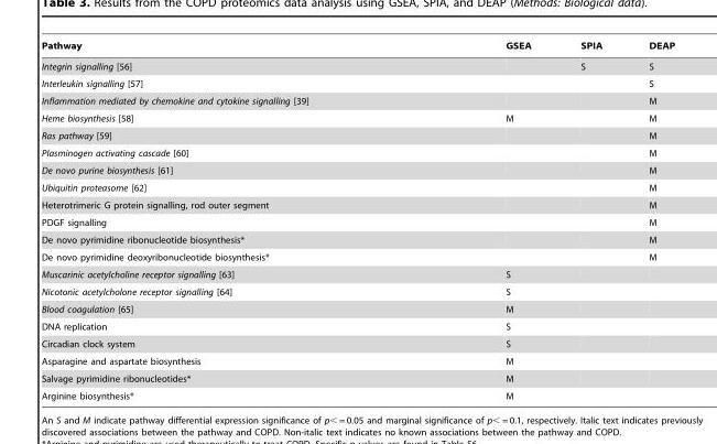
<table><thead><tr><td>Pathway</td><td>GSEA</td><td>SPIA</td><td>DEAP</td></tr></thead><tbody><tr><td>Integrin signalling [56]</td><td></td><td>S</td><td>S</td></tr><tr><td>Interleukin signalling [57]</td><td></td><td></td><td>S</td></tr><tr><td>Inflammation mediated by chemokine and cytokine signalling [39]</td><td></td><td></td><td>M</td></tr><tr><td>Heme biosynthesis [58]</td><td>M</td><td></td><td>M</td></tr><tr><td>Ras pathway [59]</td><td></td><td></td><td>M</td></tr><tr><td>Plasminogen activating cascade [60]</td><td></td><td></td><td>M</td></tr><tr><td>De novo purine biosynthesis [61]</td><td></td><td></td><td>M</td></tr><tr><td>Ubiquitin proteasome [62]</td><td></td><td></td><td>M</td></tr><tr><td>Heterotrimeric G protein signalling, rod outer segment</td><td></td><td></td><td>M</td></tr><tr><td>PDGF signalling</td><td></td><td></td><td>M</td></tr><tr><td>De novo pyrimidine ribonucleotide biosynthesis*</td><td></td><td></td><td>M</td></tr><tr><td>De novo pyrimidine deoxyribonucleotide biosynthesis*</td><td></td><td></td><td>M</td></tr><tr><td>Muscarinic acetylcholine receptor signalling [63]</td><td>S</td><td></td><td></td></tr><tr><td>Nicotonic acetylcholone receptor signalling [64]</td><td>S</td><td></td><td></td></tr><tr><td>Blood coagulation [65]</td><td>M</td><td></td><td></td></tr><tr><td>DNA replication</td><td>S</td><td></td><td></td></tr><tr><td>Circadian clock system</td><td>S</td><td></td><td></td></tr><tr><td>Asparagine and aspartate biosynthesis</td><td>M</td><td></td><td></td></tr><tr><td>Salvage pyrimidine ribonucleotides*</td><td>M</td><td></td><td></td></tr><tr><td>Arginine biosynthesis*</td><td>M</td><td></td><td></td></tr></tbody></table>